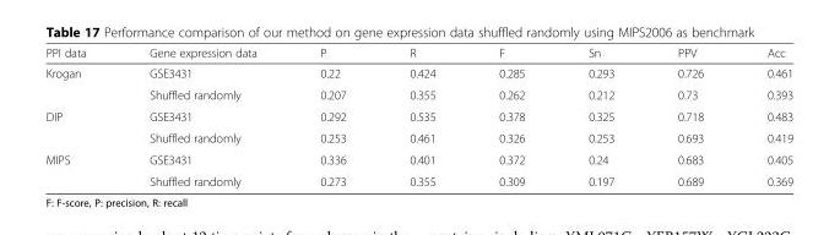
<table><thead><tr><td>PPI data</td><td>Gene expression data</td><td>P</td><td>R</td><td>F</td><td>Sn</td><td>PPV</td><td>Acc</td></tr></thead><tbody><tr><td rowspan="2">Krogan</td><td>GSE3431</td><td>0.22</td><td>0.424</td><td>0.285</td><td>0.293</td><td>0.726</td><td>0.461</td></tr><tr><td>Shuffled randomly</td><td>0.207</td><td>0.355</td><td>0.262</td><td>0.212</td><td>0.73</td><td>0.393</td></tr><tr><td rowspan="2">DIP</td><td>GSE3431</td><td>0.292</td><td>0.535</td><td>0.378</td><td>0.325</td><td>0.718</td><td>0.483</td></tr><tr><td>Shuffled randomly</td><td>0.253</td><td>0.461</td><td>0.326</td><td>0.253</td><td>0.693</td><td>0.419</td></tr><tr><td rowspan="2">MIPS</td><td>GSE3431</td><td>0.336</td><td>0.401</td><td>0.372</td><td>0.24</td><td>0.683</td><td>0.405</td></tr><tr><td>Shuffled randomly</td><td>0.273</td><td>0.355</td><td>0.309</td><td>0.197</td><td>0.689</td><td>0.369</td></tr></tbody></table>